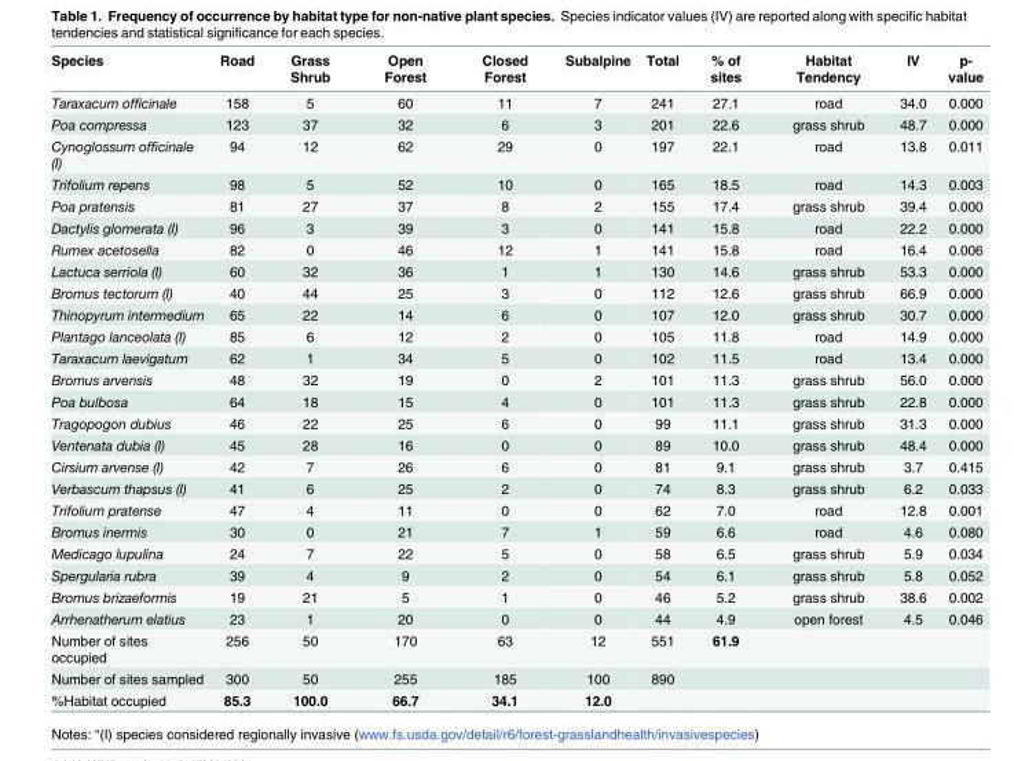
<table><thead><tr><td>Species</td><td>Road</td><td>Grass Shrub</td><td>Open Forest</td><td>Closed Forest</td><td>Subalpine</td><td>Total</td><td>% of sites</td><td>Habitat Tendency</td><td>IV</td><td>p- value</td></tr></thead><tbody><tr><td>Taraxacum officinale</td><td>158</td><td>5</td><td>60</td><td>11</td><td>7</td><td>241</td><td>27.1</td><td>road</td><td>34.0</td><td>0.000</td></tr><tr><td>Poa compressa</td><td>123</td><td>37</td><td>32</td><td>6</td><td>3</td><td>201</td><td>22.6</td><td>grass shrub</td><td>48.7</td><td>0.000</td></tr><tr><td>Cynoglossum officinale (I)</td><td>94</td><td>12</td><td>62</td><td>29</td><td>0</td><td>197</td><td>22.1</td><td>road</td><td>13.8</td><td>0.011</td></tr><tr><td>Trifolium repens</td><td>98</td><td>5</td><td>52</td><td>10</td><td>0</td><td>165</td><td>18.5</td><td>road</td><td>14.3</td><td>0.003</td></tr><tr><td>Poa pratensis</td><td>81</td><td>27</td><td>37</td><td>8</td><td>2</td><td>155</td><td>17.4</td><td>grass shrub</td><td>39.4</td><td>0.000</td></tr><tr><td>Dactylis glomerata (I)</td><td>96</td><td>3</td><td>39</td><td>3</td><td>0</td><td>141</td><td>15.8</td><td>road</td><td>22.2</td><td>0.000</td></tr><tr><td>Rumex acetosella</td><td>82</td><td>0</td><td>46</td><td>12</td><td>1</td><td>141</td><td>15.8</td><td>road</td><td>16.4</td><td>0.006</td></tr><tr><td>Lactuca serriola (I)</td><td>60</td><td>32</td><td>36</td><td>1</td><td>1</td><td>130</td><td>14.6</td><td>grass shrub</td><td>53.3</td><td>0.000</td></tr><tr><td>Bromus tectorum (I)</td><td>40</td><td>44</td><td>25</td><td>3</td><td>0</td><td>112</td><td>12.6</td><td>grass shrub</td><td>66.9</td><td>0.000</td></tr><tr><td>Thinopyrum intermedium</td><td>65</td><td>22</td><td>14</td><td>6</td><td>0</td><td>107</td><td>12.0</td><td>grass shrub</td><td>30.7</td><td>0.000</td></tr><tr><td>Plantago lanceolata (I)</td><td>85</td><td>6</td><td>12</td><td>2</td><td>0</td><td>105</td><td>11.8</td><td>road</td><td>14.9</td><td>0.000</td></tr><tr><td>Taraxacum laevigatum</td><td>62</td><td>1</td><td>34</td><td>5</td><td>0</td><td>102</td><td>11.5</td><td>road</td><td>13.4</td><td>0.000</td></tr><tr><td>Bromus arvensis</td><td>48</td><td>32</td><td>19</td><td>0</td><td>2</td><td>101</td><td>11.3</td><td>grass shrub</td><td>56.0</td><td>0.000</td></tr><tr><td>Poa bulbosa</td><td>64</td><td>18</td><td>15</td><td>4</td><td>0</td><td>101</td><td>11.3</td><td>grass shrub</td><td>22.8</td><td>0.000</td></tr><tr><td>Tragopogon dubius</td><td>46</td><td>22</td><td>25</td><td>6</td><td>0</td><td>99</td><td>11.1</td><td>grass shrub</td><td>31.3</td><td>0.000</td></tr><tr><td>Ventenata dubia (I)</td><td>45</td><td>28</td><td>16</td><td>0</td><td>0</td><td>89</td><td>10.0</td><td>grass shrub</td><td>48.4</td><td>0.000</td></tr><tr><td>Cirsium arvense (I)</td><td>42</td><td>7</td><td>26</td><td>6</td><td>0</td><td>81</td><td>9.1</td><td>grass shrub</td><td>3.7</td><td>0.415</td></tr><tr><td>Verbascum thapsus (I)</td><td>41</td><td>6</td><td>25</td><td>2</td><td>0</td><td>74</td><td>8.3</td><td>grass shrub</td><td>6.2</td><td>0.033</td></tr><tr><td>Trifolium pratense</td><td>47</td><td>4</td><td>11</td><td>0</td><td>0</td><td>62</td><td>7.0</td><td>road</td><td>12.8</td><td>0.001</td></tr><tr><td>Bromus inermis</td><td>30</td><td>0</td><td>21</td><td>7</td><td>1</td><td>59</td><td>6.6</td><td>road</td><td>4.6</td><td>0.080</td></tr><tr><td>Medicago lupulina</td><td>24</td><td>7</td><td>22</td><td>5</td><td>0</td><td>58</td><td>6.5</td><td>grass shrub</td><td>5.9</td><td>0.034</td></tr><tr><td>Spergularia rubra</td><td>39</td><td>4</td><td>9</td><td>2</td><td>0</td><td>54</td><td>6.1</td><td>grass shrub</td><td>5.8</td><td>0.052</td></tr><tr><td>Bromus brizaeformis</td><td>19</td><td>21</td><td>5</td><td>1</td><td>0</td><td>46</td><td>5.2</td><td>grass shrub</td><td>38.6</td><td>0.002</td></tr><tr><td>Arrhenatherum elatius</td><td>23</td><td>1</td><td>20</td><td>0</td><td>0</td><td>44</td><td>4.9</td><td>open forest</td><td>4.5</td><td>0.046</td></tr><tr><td>Number of sites occupied</td><td>256</td><td>50</td><td>170</td><td>63</td><td>12</td><td>551</td><td>61.9</td><td></td><td></td><td></td></tr><tr><td>Number of sites sampled</td><td>300</td><td>50</td><td>255</td><td>185</td><td>100</td><td>890</td><td></td><td></td><td></td><td></td></tr><tr><td>%Habitat occupied</td><td>85.3</td><td>100.0</td><td>66.7</td><td>34.1</td><td>12.0</td><td></td><td></td><td></td><td></td><td></td></tr></tbody></table>